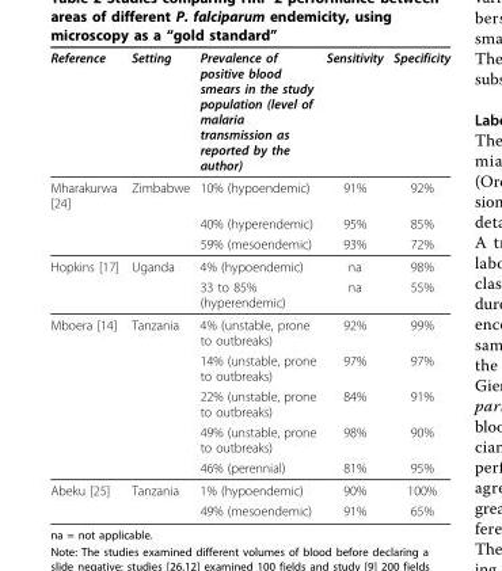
<table><thead><tr><td>Reference</td><td>Setting</td><td>Prevalence of positive blood smears in the study population (level of malaria transmission as reported by the author)</td><td>Sensitivity</td><td>Specificity</td></tr></thead><tbody><tr><td rowspan="3">Mharakurwa [24]</td><td>Zimbabwe</td><td>10% (hypoendemic)</td><td>91%</td><td>92%</td></tr><tr><td></td><td>40% (hyperendemic)</td><td>95%</td><td>85%</td></tr><tr><td></td><td>59% (mesoendemic)</td><td>93%</td><td>72%</td></tr><tr><td rowspan="2">Hopkins [17]</td><td>Uganda</td><td>4% (hypoendemic)</td><td>na</td><td>98%</td></tr><tr><td></td><td>33 to 85% (hyperendemic)</td><td>na</td><td>55%</td></tr><tr><td rowspan="5">Mboera [14]</td><td>Tanzania</td><td>4% (unstable, prone to outbreaks)</td><td>92%</td><td>99%</td></tr><tr><td></td><td>14% (unstable, prone to outbreaks)</td><td>97%</td><td>97%</td></tr><tr><td></td><td>22% (unstable, prone to outbreaks)</td><td>84%</td><td>91%</td></tr><tr><td></td><td>49% (unstable, prone to outbreaks)</td><td>98%</td><td>90%</td></tr><tr><td></td><td>46% (perennial)</td><td>81%</td><td>95%</td></tr><tr><td rowspan="2">Abeku [25]</td><td>Tanzania</td><td>1% (hypoendemic)</td><td>90%</td><td>100%</td></tr><tr><td></td><td>49% (mesoendemic)</td><td>91%</td><td>65%</td></tr></tbody></table>